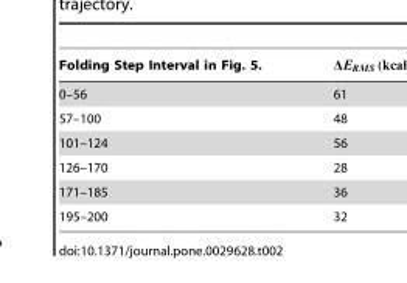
<table><thead><tr><td>Folding Step Interval in Fig. 5.</td><td></td></tr></thead><tbody><tr><td>0–56</td><td>61</td></tr><tr><td>57–100</td><td>48</td></tr><tr><td>101–124</td><td>56</td></tr><tr><td>126–170</td><td>28</td></tr><tr><td>171–185</td><td>36</td></tr><tr><td>195–200</td><td>32</td></tr></tbody></table>